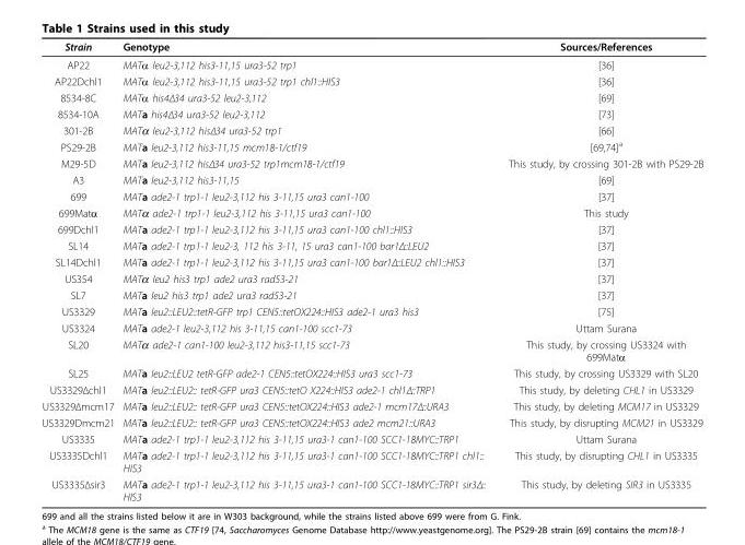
<table><thead><tr><td>Strain</td><td>Genotype</td><td>Sources/References</td></tr></thead><tbody><tr><td>AP22</td><td>MATα leu2-3,112 his3-11,15 ura3-52 trp1</td><td>[36]</td></tr><tr><td>AP22Dchl1</td><td>MATα leu2-3,112 his3-11,15 ura3-52 trp1 chl1::HIS3</td><td>[36]</td></tr><tr><td>8534-8C</td><td>MATα his4Δ34 ura3-52 leu2-3,112</td><td>[69]</td></tr><tr><td>8534-10A</td><td>MATa his4Δ34 ura3-52 leu2-3,112</td><td>[73]</td></tr><tr><td>301-2B</td><td>MATα leu2-3,112 hisΔ34 ura3-52 trp1</td><td>[66]</td></tr><tr><td>PS29-2B</td><td>MATa leu2-3,112 his3-11,15 mcm18-1/ctf19</td><td>[69,74]<sup>a</sup></td></tr><tr><td>M29-5D</td><td>MATa leu2-3,112 hisΔ34 ura3-52 trp1mcm18-1/ctf19</td><td>This study, by crossing 301-2B with PS29-2B</td></tr><tr><td>A3</td><td>MATa leu2-3,112 his3-11,15</td><td>[69]</td></tr><tr><td>699</td><td>MATa ade2-1 trp1-1 leu2-3,112 his 3-11,15 ura3 can1-100</td><td>[37]</td></tr><tr><td>699Matα</td><td>MATα ade2-1 trp1-1 leu2-3,112 his 3-11,15 ura3 can1-100</td><td>This study</td></tr><tr><td>699Dchl1</td><td>MATa ade2-1 trp1-1 leu2-3,112 his 3-11,15 ura3 can1-100 chl1::HIS3</td><td>[37]</td></tr><tr><td>SL14</td><td>MATa ade2-1 trp1-1 leu2-3, 112 his 3-11, 15 ura3 can1-100 bar1Δ::LEU2</td><td>[37]</td></tr><tr><td>SL14Dchl1</td><td>MATa ade2-1 trp1-1 leu2-3,112 his 3-11,15 ura3 can1-100 bar1Δ::LEU2 chl1::HIS3</td><td>[37]</td></tr><tr><td>US354</td><td>MATα leu2 his3 trp1 ade2 ura3 rad53-21</td><td>[37]</td></tr><tr><td>SL7</td><td>MATa leu2 his3 trp1 ade2 ura3 rad53-21</td><td>[37]</td></tr><tr><td>US3329</td><td>MATa leu2::LEU2::tetR-GFP trp1 CEN5::tetOX224::HIS3 ade2-1 ura3 his3</td><td>[75]</td></tr><tr><td>US3324</td><td>MATa ade2-1 leu2-3,112 his 3-11,15 can1-100 scc1-73</td><td>Uttam Surana</td></tr><tr><td>SL20</td><td>MATα ade2-1 can1-100 leu2-3,112 his3-11,15 scc1-73</td><td>This study, by crossing US3324 with 699Matα</td></tr><tr><td>SL25</td><td>MATa leu2::LEU2 tetR-GFP ade2-1 CEN5::tetOX224::HIS3 ura3 scc1-73</td><td>This study, by crossing US3329 with SL20</td></tr><tr><td>US3329Δchl1</td><td>MATa leu2::LEU2:: tetR-GFP ura3 CEN5::tetO X224::HIS3 ade2-1 chl1Δ::TRP1</td><td>This study, by deleting CHL1 in US3329</td></tr><tr><td>US3329Δmcm17</td><td>MATa leu2::LEU2:: tetR-GFP ura3 CEN5::tetOX224::HIS3 ade2-1 mcm17Δ::URA3</td><td>This study, by deleting MCM17 in US3329</td></tr><tr><td>US3329Dmcm21</td><td>MATa leu2::LEU2:: tetR-GFP ura3 CEN5::tetOX224::HIS3 ade2 mcm21::URA3</td><td>This study, by disrupting MCM21 in US3329</td></tr><tr><td>US3335</td><td>MATa ade2-1 trp1-1 leu2-3,112 his 3-11,15 ura3-1 can1-100 SCC1-18MYC::TRP1</td><td>Uttam Surana</td></tr><tr><td>US3335Dchl1</td><td>MATa ade2-1 trp1-1 leu2-3,112 his 3-11,15 ura3-1 can1-100 SCC1-18MYC::TRP1 chl1:: HIS3</td><td>This study, by disrupting CHL1 in US3335</td></tr><tr><td>US3335Δsir3</td><td>MATa ade2-1 trp1-1 leu2-3,112 his 3-11,15 ura3-1 can1-100 SCC1-18MYC::TRP1 sir3Δ:: HIS3</td><td>This study, by deleting SIR3 in US3335</td></tr></tbody></table>